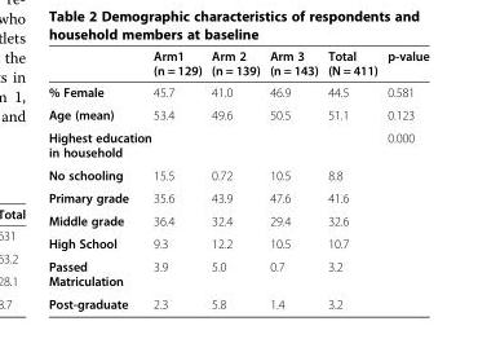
<table><thead><tr><td></td><td>Arm1 (n = 129)</td><td>Arm 2 (n = 139)</td><td>Arm 3 (n = 143)</td><td>Total (N = 411)</td><td>p-value</td></tr></thead><tbody><tr><td>% Female</td><td>45.7</td><td>41.0</td><td>46.9</td><td>44.5</td><td>0.581</td></tr><tr><td>Age (mean)</td><td>53.4</td><td>49.6</td><td>50.5</td><td>51.1</td><td>0.123</td></tr><tr><td colspan="5">Highest education in household</td><td>0.000</td></tr><tr><td>No schooling</td><td>15.5</td><td>0.72</td><td>10.5</td><td>8.8</td><td></td></tr><tr><td>Primary grade</td><td>35.6</td><td>43.9</td><td>47.6</td><td>41.6</td><td></td></tr><tr><td>Middle grade</td><td>36.4</td><td>32.4</td><td>29.4</td><td>32.6</td><td></td></tr><tr><td>High School</td><td>9.3</td><td>12.2</td><td>10.5</td><td>10.7</td><td></td></tr><tr><td>Passed Matriculation</td><td>3.9</td><td>5.0</td><td>0.7</td><td>3.2</td><td></td></tr><tr><td>Post-graduate</td><td>2.3</td><td>5.8</td><td>1.4</td><td>3.2</td><td></td></tr></tbody></table>